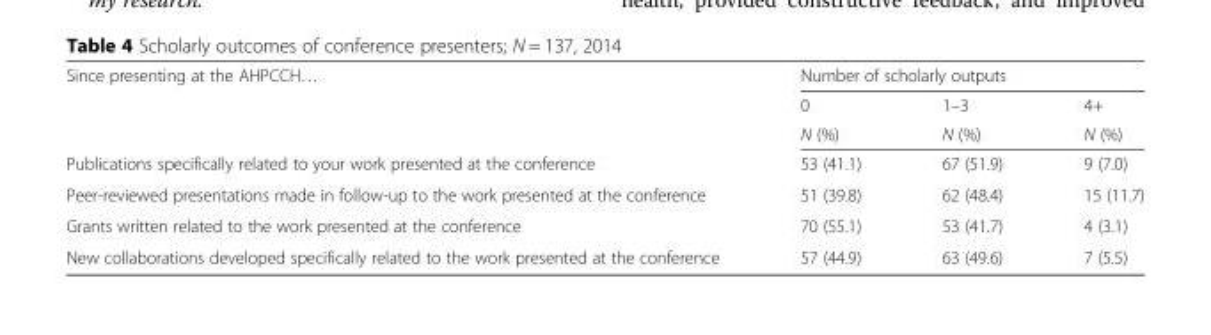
<table><thead><tr><td rowspan="3">Since presenting at the AHPCCH…</td><td colspan="3">Number of scholarly outputs</td></tr><tr><td rowspan="2">0 N (%)</td><td rowspan="2">1–3 N (%)</td><td rowspan="2">4+ N (%)</td></tr><tr></tr></thead><tbody><tr><td>Publications specifically related to your work presented at the conference</td><td>53 (41.1)</td><td>67 (51.9)</td><td>9 (7.0)</td></tr><tr><td>Peer-reviewed presentations made in follow-up to the work presented at the conference</td><td>51 (39.8)</td><td>62 (48.4)</td><td>15 (11.7)</td></tr><tr><td>Grants written related to the work presented at the conference</td><td>70 (55.1)</td><td>53 (41.7)</td><td>4 (3.1)</td></tr><tr><td>New collaborations developed specifically related to the work presented at the conference</td><td>57 (44.9)</td><td>63 (49.6)</td><td>7 (5.5)</td></tr></tbody></table>